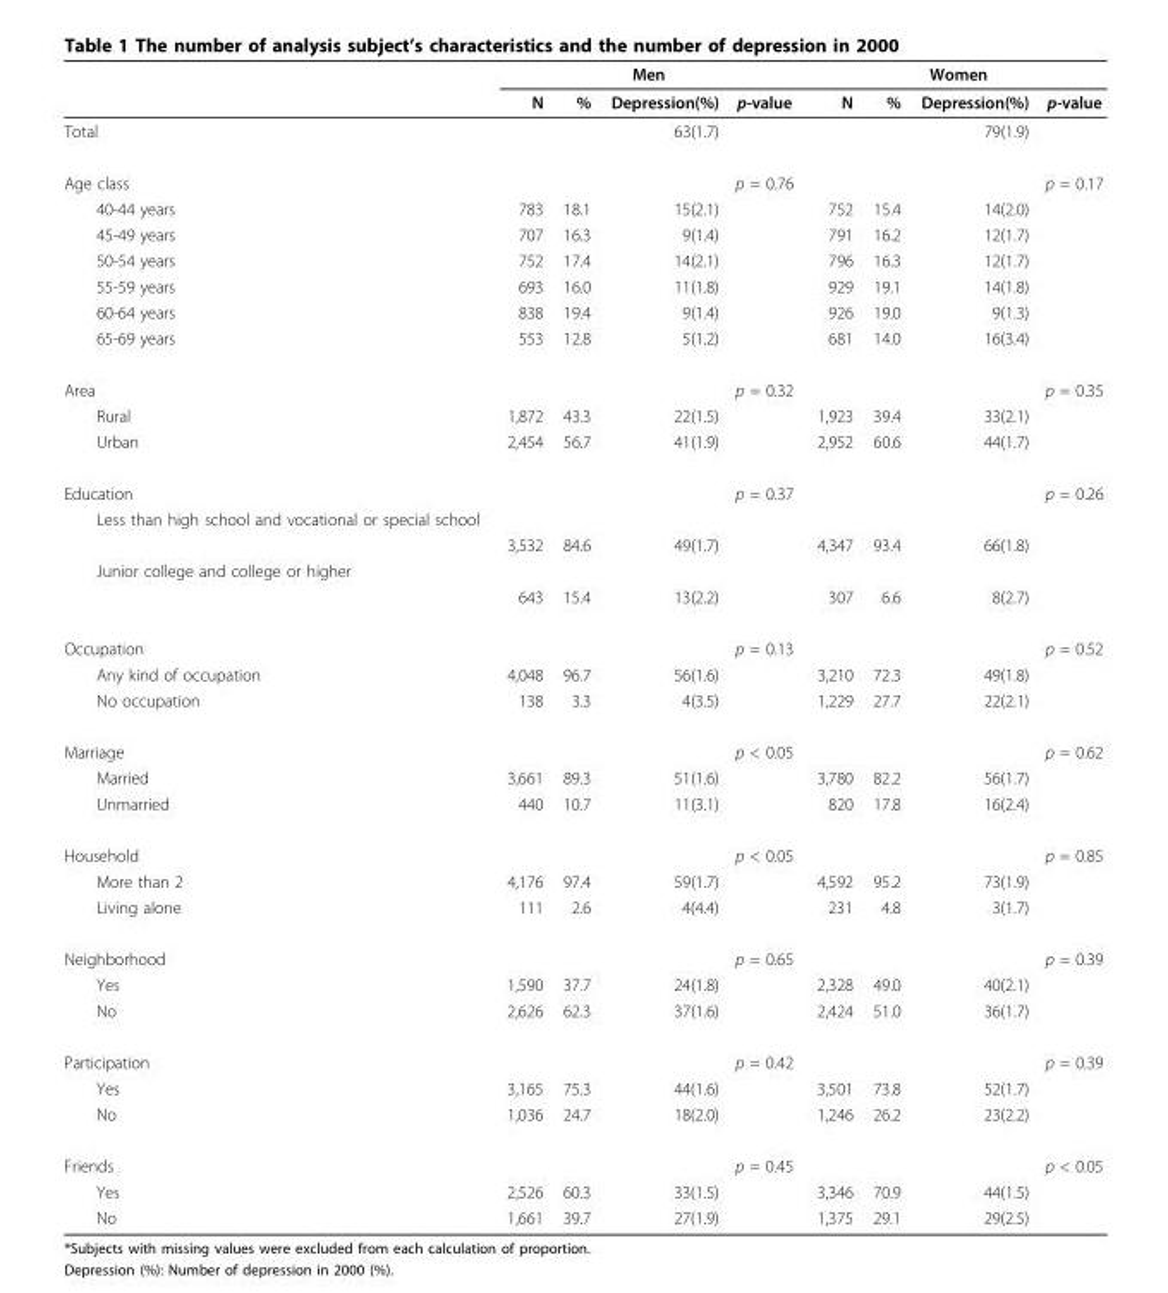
<table><thead><tr><td rowspan="2"></td><td colspan="4">Men</td><td colspan="4">Women</td></tr><tr><td>N</td><td>%</td><td>Depression(%)</td><td>p-value</td><td>N</td><td>%</td><td>Depression(%)</td><td>p-value</td></tr></thead><tbody><tr><td>Total</td><td></td><td></td><td>63(1.7)</td><td></td><td></td><td></td><td>79(1.9)</td><td></td></tr><tr><td>Age class</td><td></td><td></td><td></td><td>p = 0.76</td><td></td><td></td><td></td><td>p = 0.17</td></tr><tr><td>40-44 years</td><td>783</td><td>18.1</td><td>15(2.1)</td><td></td><td>752</td><td>15.4</td><td>14(2.0)</td><td></td></tr><tr><td>45-49 years</td><td>707</td><td>16.3</td><td>9(1.4)</td><td></td><td>791</td><td>16.2</td><td>12(1.7)</td><td></td></tr><tr><td>50-54 years</td><td>752</td><td>17.4</td><td>14(2.1)</td><td></td><td>796</td><td>16.3</td><td>12(1.7)</td><td></td></tr><tr><td>55-59 years</td><td>693</td><td>16.0</td><td>11(1.8)</td><td></td><td>929</td><td>19.1</td><td>14(1.8)</td><td></td></tr><tr><td>60-64 years</td><td>838</td><td>19.4</td><td>9(1.4)</td><td></td><td>926</td><td>19.0</td><td>9(1.3)</td><td></td></tr><tr><td>65-69 years</td><td>553</td><td>12.8</td><td>5(1.2)</td><td></td><td>681</td><td>14.0</td><td>16(3.4)</td><td></td></tr><tr><td>Area</td><td></td><td></td><td></td><td>p = 0.32</td><td></td><td></td><td></td><td>p = 0.35</td></tr><tr><td>Rural</td><td>1,872</td><td>43.3</td><td>22(1.5)</td><td></td><td>1,923</td><td>39.4</td><td>33(2.1)</td><td></td></tr><tr><td>Urban</td><td>2,454</td><td>56.7</td><td>41(1.9)</td><td></td><td>2,952</td><td>60.6</td><td>44(1.7)</td><td></td></tr><tr><td>Education</td><td></td><td></td><td></td><td>p = 0.37</td><td></td><td></td><td></td><td>p = 0.26</td></tr><tr><td colspan="9">Less than high school and vocational or special school</td></tr><tr><td></td><td>3,532</td><td>84.6</td><td>49(1.7)</td><td></td><td>4,347</td><td>93.4</td><td>66(1.8)</td><td></td></tr><tr><td colspan="9">Junior college and college or higher</td></tr><tr><td></td><td>643</td><td>15.4</td><td>13(2.2)</td><td></td><td>307</td><td>6.6</td><td>8(2.7)</td><td></td></tr><tr><td>Occupation</td><td></td><td></td><td></td><td>p = 0.13</td><td></td><td></td><td></td><td>p = 0.52</td></tr><tr><td>Any kind of occupation</td><td>4,048</td><td>96.7</td><td>56(1.6)</td><td></td><td>3,210</td><td>72.3</td><td>49(1.8)</td><td></td></tr><tr><td>No occupation</td><td>138</td><td>3.3</td><td>4(3.5)</td><td></td><td>1,229</td><td>27.7</td><td>22(2.1)</td><td></td></tr><tr><td>Marriage</td><td></td><td></td><td></td><td>p &lt; 0.05</td><td></td><td></td><td></td><td>p = 0.62</td></tr><tr><td>Married</td><td>3,661</td><td>89.3</td><td>51(1.6)</td><td></td><td>3,780</td><td>82.2</td><td>56(1.7)</td><td></td></tr><tr><td>Unmarried</td><td>440</td><td>10.7</td><td>11(3.1)</td><td></td><td>820</td><td>17.8</td><td>16(2.4)</td><td></td></tr><tr><td>Household</td><td></td><td></td><td></td><td>p &lt; 0.05</td><td></td><td></td><td></td><td>p = 0.85</td></tr><tr><td>More than 2</td><td>4,176</td><td>97.4</td><td>59(1.7)</td><td></td><td>4,592</td><td>95.2</td><td>73(1.9)</td><td></td></tr><tr><td>Living alone</td><td>111</td><td>2.6</td><td>4(4.4)</td><td></td><td>231</td><td>4.8</td><td>3(1.7)</td><td></td></tr><tr><td>Neighborhood</td><td></td><td></td><td></td><td>p = 0.65</td><td></td><td></td><td></td><td>p = 0.39</td></tr><tr><td>Yes</td><td>1,590</td><td>37.7</td><td>24(1.8)</td><td></td><td>2,328</td><td>49.0</td><td>40(2.1)</td><td></td></tr><tr><td>No</td><td>2,626</td><td>62.3</td><td>37(1.6)</td><td></td><td>2,424</td><td>51.0</td><td>36(1.7)</td><td></td></tr><tr><td>Participation</td><td></td><td></td><td></td><td>p = 0.42</td><td></td><td></td><td></td><td>p = 0.39</td></tr><tr><td>Yes</td><td>3,165</td><td>75.3</td><td>44(1.6)</td><td></td><td>3,501</td><td>73.8</td><td>52(1.7)</td><td></td></tr><tr><td>No</td><td>1,036</td><td>24.7</td><td>18(2.0)</td><td></td><td>1,246</td><td>26.2</td><td>23(2.2)</td><td></td></tr><tr><td>Friends</td><td></td><td></td><td></td><td>p = 0.45</td><td></td><td></td><td></td><td>p &lt; 0.05</td></tr><tr><td>Yes</td><td>2,526</td><td>60.3</td><td>33(1.5)</td><td></td><td>3,346</td><td>70.9</td><td>44(1.5)</td><td></td></tr><tr><td>No</td><td>1,661</td><td>39.7</td><td>27(1.9)</td><td></td><td>1,375</td><td>29.1</td><td>29(2.5)</td><td></td></tr></tbody></table>